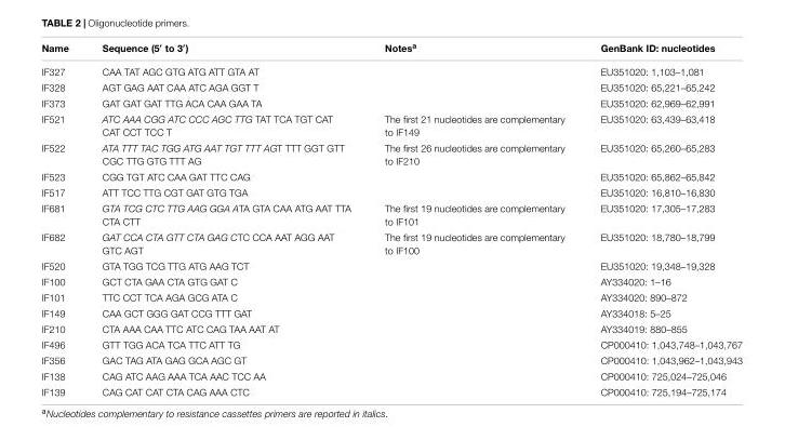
<table><thead><tr><td>Name</td><td>Sequence (5′ to 3′)</td><td>Notes<sup>a</sup></td><td>GenBank ID: nucleotides</td></tr></thead><tbody><tr><td>IF327</td><td>CAA TAT AGC GTG ATG ATT GTA AT</td><td></td><td>EU351020: 1,103–1,081</td></tr><tr><td>IF328</td><td>AGT GAG AAT CAA ATC AGA GGT T</td><td></td><td>EU351020: 65,221–65,242</td></tr><tr><td>IF373</td><td>GAT GAT GAT TTG ACA CAA GAA TA</td><td></td><td>EU351020: 62,969–62,991</td></tr><tr><td>IF521</td><td>ATC AAA CGG ATC CCC AGC TTG TAT TCA TGT CAT CAT CCT TCC T</td><td>The first 21 nucleotides are complementary to IF149</td><td>EU351020: 63,439–63,418</td></tr><tr><td>IF522</td><td>ATA TTT TAC TGG ATG AAT TGT TTT AGT TTT GGT GTT CGC TTG GTG TTT AG</td><td>The first 26 nucleotides are complementary to IF210</td><td>EU351020: 65,260–65,283</td></tr><tr><td>IF523</td><td>CGG TGT ATC CAA GAT TTC CAG</td><td></td><td>EU351020: 65,862–65,842</td></tr><tr><td>IF517</td><td>ATT TCC TTG CGT GAT GTG TGA</td><td></td><td>EU351020: 16,810–16,830</td></tr><tr><td>IF681</td><td>GTA TCG CTC TTG AAG GGA ATA GTA CAA ATG AAT TTA CTA CTT</td><td>The first 19 nucleotides are complementary to IF101</td><td>EU351020: 17,305–17,283</td></tr><tr><td>IF682</td><td>GAT CCA CTA GTT CTA GAG CTC CCA AAT AGG AAT GTC AGT</td><td>The first 19 nucleotides are complementary to IF100</td><td>EU351020: 18,780–18,799</td></tr><tr><td>IF520</td><td>GTA TGG TCG TTG ATG AAG TCT</td><td></td><td>EU351020: 19,348–19,328</td></tr><tr><td>IF100</td><td>GCT CTA GAA CTA GTG GAT C</td><td></td><td>AY334020: 1–16</td></tr><tr><td>IF101</td><td>TTC CCT TCA AGA GCG ATA C</td><td></td><td>AY334020: 890–872</td></tr><tr><td>IF149</td><td>CAA GCT GGG GAT CCG TTT GAT</td><td></td><td>AY334018: 5–25</td></tr><tr><td>IF210</td><td>CTA AAA CAA TTC ATC CAG TAA AAT AT</td><td></td><td>AY334019: 880–855</td></tr><tr><td>IF496</td><td>GTT TGG ACA TCA TTC ATT TG</td><td></td><td>CP000410: 1,043,748–1,043,767</td></tr><tr><td>IF356</td><td>GAC TAG ATA GAG GCA AGC GT</td><td></td><td>CP000410: 1,043,962–1,043,943</td></tr><tr><td>IF138</td><td>CAG ATC AAG AAA TCA AAC TCC AA</td><td></td><td>CP000410: 725,024–725,046</td></tr><tr><td>IF139</td><td>CAG CAT CAT CTA CAG AAA CTC</td><td></td><td>CP000410: 725,194–725,174</td></tr></tbody></table>